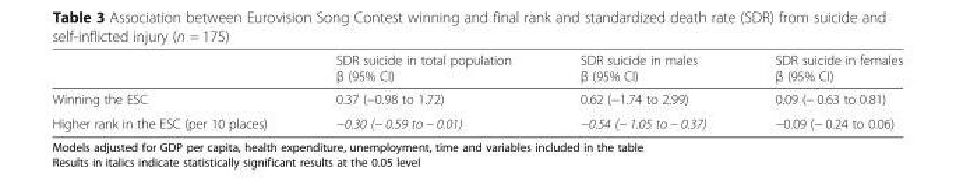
<table><thead><tr><td></td><td>SDR suicide in total population β (95% CI)</td><td>SDR suicide in males β (95% CI)</td><td>SDR suicide in females β (95% CI)</td></tr></thead><tbody><tr><td>Winning the ESC</td><td>0.37 (−0.98 to 1.72)</td><td>0.62 (−1.74 to 2.99)</td><td>0.09 (− 0.63 to 0.81)</td></tr><tr><td>Higher rank in the ESC (per 10 places)</td><td>−0.30 (− 0.59 to − 0.01)</td><td>−0.54 (− 1.05 to − 0.37)</td><td>−0.09 (− 0.24 to 0.06)</td></tr></tbody></table>